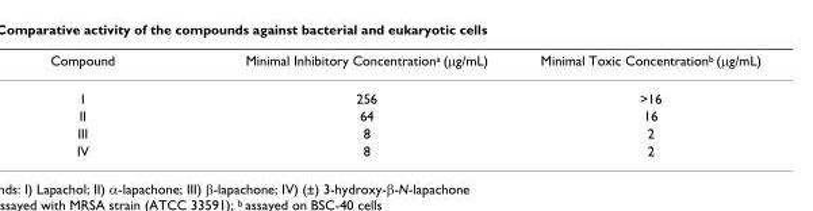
<table><thead><tr><td>Compound</td><td>Minimal Inhibitory Concentration<sup>a</sup> (µg/mL)</td><td>Minimal Toxic Concentration<sup>b</sup> (µg/mL)</td></tr></thead><tbody><tr><td>I</td><td>256</td><td>&gt;16</td></tr><tr><td>II</td><td>64</td><td>16</td></tr><tr><td>III</td><td>8</td><td>2</td></tr><tr><td>IV</td><td>8</td><td>2</td></tr></tbody></table>